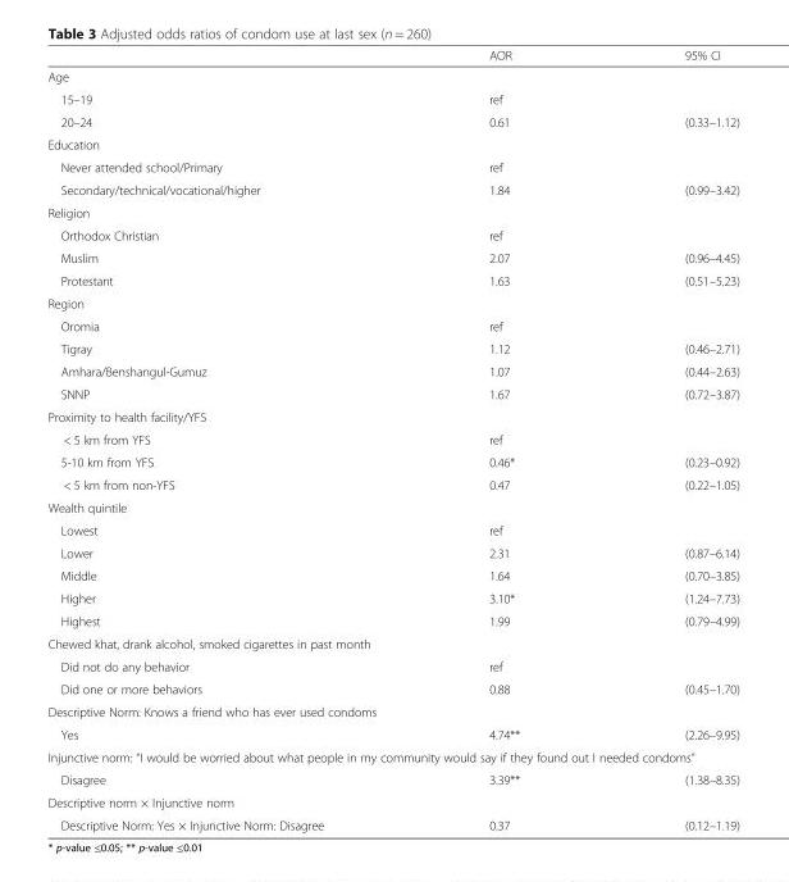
<table><thead><tr><td></td><td>AOR</td><td>95% CI</td></tr></thead><tbody><tr><td colspan="3">Age</td></tr><tr><td>15–19</td><td>ref</td><td></td></tr><tr><td>20–24</td><td>0.61</td><td>(0.33–1.12)</td></tr><tr><td colspan="3">Education</td></tr><tr><td>Never attended school/Primary</td><td>ref</td><td></td></tr><tr><td>Secondary/technical/vocational/higher</td><td>1.84</td><td>(0.99–3.42)</td></tr><tr><td colspan="3">Religion</td></tr><tr><td>Orthodox Christian</td><td>ref</td><td></td></tr><tr><td>Muslim</td><td>2.07</td><td>(0.96–4.45)</td></tr><tr><td>Protestant</td><td>1.63</td><td>(0.51–5.23)</td></tr><tr><td colspan="3">Region</td></tr><tr><td>Oromia</td><td>ref</td><td></td></tr><tr><td>Tigray</td><td>1.12</td><td>(0.46–2.71)</td></tr><tr><td>Amhara/Benshangul-Gumuz</td><td>1.07</td><td>(0.44–2.63)</td></tr><tr><td>SNNP</td><td>1.67</td><td>(0.72–3.87)</td></tr><tr><td colspan="3">Proximity to health facility/YFS</td></tr><tr><td>&lt; 5 km from YFS</td><td>ref</td><td></td></tr><tr><td>5-10 km from YFS</td><td>0.46*</td><td>(0.23–0.92)</td></tr><tr><td>&lt; 5 km from non-YFS</td><td>0.47</td><td>(0.22–1.05)</td></tr><tr><td colspan="3">Wealth quintile</td></tr><tr><td>Lowest</td><td>ref</td><td></td></tr><tr><td>Lower</td><td>2.31</td><td>(0.87–6.14)</td></tr><tr><td>Middle</td><td>1.64</td><td>(0.70–3.85)</td></tr><tr><td>Higher</td><td>3.10*</td><td>(1.24–7.73)</td></tr><tr><td>Highest</td><td>1.99</td><td>(0.79–4.99)</td></tr><tr><td colspan="3">Chewed khat, drank alcohol, smoked cigarettes in past month</td></tr><tr><td>Did not do any behavior</td><td>ref</td><td></td></tr><tr><td>Did one or more behaviors</td><td>0.88</td><td>(0.45–1.70)</td></tr><tr><td colspan="3">Descriptive Norm: Knows a friend who has ever used condoms</td></tr><tr><td>Yes</td><td>4.74**</td><td>(2.26–9.95)</td></tr><tr><td colspan="3">Injunctive norm: “I would be worried about what people in my community would say if they found out I needed condoms”</td></tr><tr><td>Disagree</td><td>3.39**</td><td>(1.38–8.35)</td></tr><tr><td colspan="3">Descriptive norm × Injunctive norm</td></tr><tr><td>Descriptive Norm: Yes × Injunctive Norm: Disagree</td><td>0.37</td><td>(0.12–1.19)</td></tr></tbody></table>